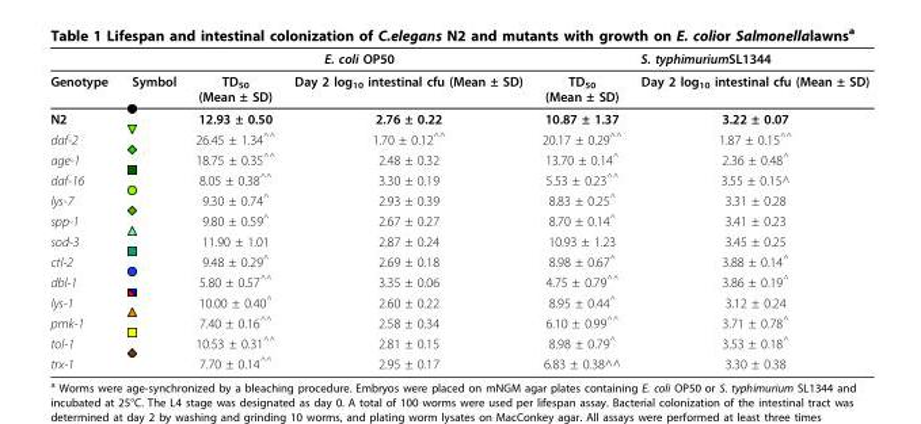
<table><thead><tr><td rowspan="2">Genotype</td><td rowspan="2">Symbol</td><td colspan="2">E. coli OP50</td><td colspan="2">S. typhimuriumSL1344</td></tr><tr><td>TD<sub>50</sub> (Mean ± SD)</td><td>Day 2 log<sub>10</sub> intestinal cfu (Mean ± SD)</td><td>TD<sub>50</sub> (Mean ± SD)</td><td>Day 2 log<sub>10</sub> intestinal cfu (Mean ± SD)</td></tr></thead><tbody><tr><td>N2</td><td></td><td>12.93 ± 0.50</td><td>2.76 ± 0.22</td><td>10.87 ± 1.37</td><td>3.22 ± 0.07</td></tr><tr><td>daf-2</td><td></td><td>26.45 ± 1.34^^</td><td>1.70 ± 0.12^^</td><td>20.17 ± 0.29^^</td><td>1.87 ± 0.15^^</td></tr><tr><td>age-1</td><td></td><td>18.75 ± 0.35^^</td><td>2.48 ± 0.32</td><td>13.70 ± 0.14<sup>^</sup></td><td>2.36 ± 0.48<sup>^</sup></td></tr><tr><td>daf-16</td><td></td><td>8.05 ± 0.38^^</td><td>3.30 ± 0.19</td><td>5.53 ± 0.23^^</td><td>3.55 ± 0.15^</td></tr><tr><td>lys-7</td><td></td><td>9.30 ± 0.74<sup>^</sup></td><td>2.93 ± 0.39</td><td>8.83 ± 0.25<sup>^</sup></td><td>3.31 ± 0.28</td></tr><tr><td>spp-1</td><td></td><td>9.80 ± 0.59<sup>^</sup></td><td>2.67 ± 0.27</td><td>8.70 ± 0.14<sup>^</sup></td><td>3.41 ± 0.23</td></tr><tr><td>sod-3</td><td></td><td>11.90 ± 1.01</td><td>2.87 ± 0.24</td><td>10.93 ± 1.23</td><td>3.45 ± 0.25</td></tr><tr><td>ctl-2</td><td></td><td>9.48 ± 0.29<sup>^</sup></td><td>2.69 ± 0.18</td><td>8.98 ± 0.67<sup>^</sup></td><td>3.88 ± 0.14<sup>^</sup></td></tr><tr><td>dbl-1</td><td></td><td>5.80 ± 0.57^^</td><td>3.35 ± 0.06</td><td>4.75 ± 0.79^^</td><td>3.86 ± 0.19<sup>^</sup></td></tr><tr><td>lys-1</td><td></td><td>10.00 ± 0.40<sup>^</sup></td><td>2.60 ± 0.22</td><td>8.95 ± 0.44<sup>^</sup></td><td>3.12 ± 0.24</td></tr><tr><td>pmk-1</td><td></td><td>7.40 ± 0.16^^</td><td>2.58 ± 0.34</td><td>6.10 ± 0.99^^</td><td>3.71 ± 0.78<sup>^</sup></td></tr><tr><td>tol-1</td><td></td><td>10.53 ± 0.31^^</td><td>2.81 ± 0.15</td><td>8.98 ± 0.79<sup>^</sup></td><td>3.53 ± 0.18<sup>^</sup></td></tr><tr><td>trx-1</td><td></td><td>7.70 ± 0.14^^</td><td>2.95 ± 0.17</td><td>6.83 ± 0.38^^</td><td>3.30 ± 0.38</td></tr></tbody></table>